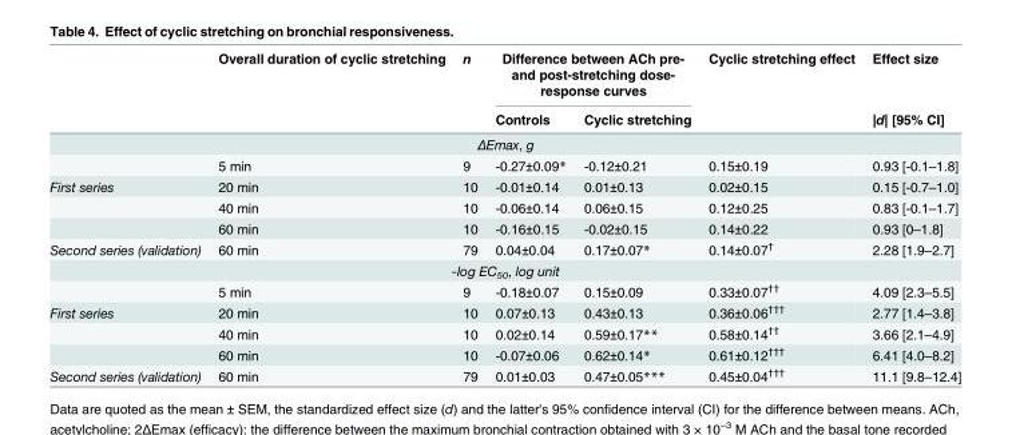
<table><thead><tr><td rowspan="2"></td><td rowspan="2">Overall duration of cyclic stretching</td><td rowspan="2">n</td><td colspan="2">Difference between ACh pre- and post-stretching dose- response curves</td><td rowspan="2">Cyclic stretching effect</td><td rowspan="2">Effect size |d| [95% CI]</td></tr><tr><td>Controls</td><td>Cyclic stretching</td></tr></thead><tbody><tr><td colspan="7">ΔEmax, g</td></tr><tr><td></td><td>5 min</td><td>9</td><td>-0.27±0.09*</td><td>-0.12±0.21</td><td>0.15±0.19</td><td>0.93 [-0.1–1.8]</td></tr><tr><td rowspan="3">First series</td><td>20 min</td><td>10</td><td>-0.01±0.14</td><td>0.01±0.13</td><td>0.02±0.15</td><td>0.15 [-0.7–1.0]</td></tr><tr><td>40 min</td><td>10</td><td>-0.06±0.14</td><td>0.06±0.15</td><td>0.12±0.25</td><td>0.83 [-0.1–1.7]</td></tr><tr><td>60 min</td><td>10</td><td>-0.16±0.15</td><td>-0.02±0.15</td><td>0.14±0.22</td><td>0.93 [0–1.8]</td></tr><tr><td>Second series (validation)</td><td>60 min</td><td>79</td><td>0.04±0.04</td><td>0.17±0.07*</td><td>0.14±0.07<sup>†</sup></td><td>2.28 [1.9–2.7]</td></tr><tr><td colspan="7">-log EC<sub>50</sub>, log unit</td></tr><tr><td></td><td>5 min</td><td>9</td><td>-0.18±0.07</td><td>0.15±0.09</td><td>0.33±0.07<sup>††</sup></td><td>4.09 [2.3–5.5]</td></tr><tr><td rowspan="3">First series</td><td>20 min</td><td>10</td><td>0.07±0.13</td><td>0.43±0.13</td><td>0.36±0.06<sup>†††</sup></td><td>2.77 [1.4–3.8]</td></tr><tr><td>40 min</td><td>10</td><td>0.02±0.14</td><td>0.59±0.17**</td><td>0.58±0.14<sup>††</sup></td><td>3.66 [2.1–4.9]</td></tr><tr><td>60 min</td><td>10</td><td>-0.07±0.06</td><td>0.62±0.14*</td><td>0.61±0.12<sup>†††</sup></td><td>6.41 [4.0–8.2]</td></tr><tr><td>Second series (validation)</td><td>60 min</td><td>79</td><td>0.01±0.03</td><td>0.47±0.05***</td><td>0.45±0.04<sup>†††</sup></td><td>11.1 [9.8–12.4]</td></tr></tbody></table>